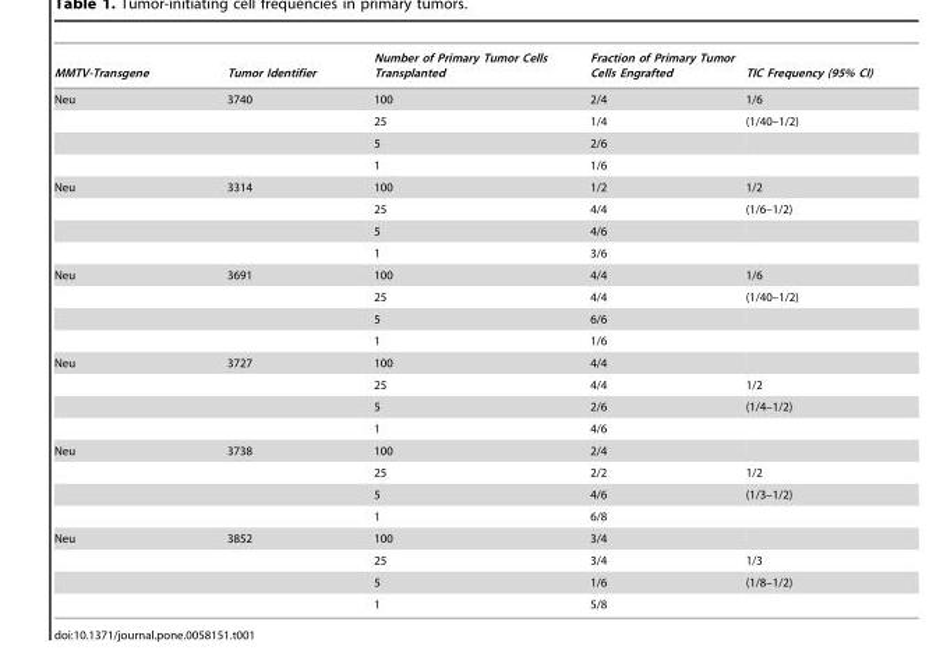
<table><thead><tr><td>MMTV-Transgene</td><td>Tumor Identifier</td><td>Number of Primary Tumor Cells Transplanted</td><td>Fraction of Primary Tumor Cells Engrafted</td><td>TIC Frequency (95% CI)</td></tr></thead><tbody><tr><td rowspan="4">Neu</td><td>3740</td><td>100</td><td>2/4</td><td>1/6</td></tr><tr><td></td><td>25</td><td>1/4</td><td>(1/40–1/2)</td></tr><tr><td></td><td>5</td><td>2/6</td><td></td></tr><tr><td></td><td>1</td><td>1/6</td><td></td></tr><tr><td rowspan="4">Neu</td><td>3314</td><td>100</td><td>1/2</td><td>1/2</td></tr><tr><td></td><td>25</td><td>4/4</td><td>(1/6–1/2)</td></tr><tr><td></td><td>5</td><td>4/6</td><td></td></tr><tr><td></td><td>1</td><td>3/6</td><td></td></tr><tr><td rowspan="4">Neu</td><td>3691</td><td>100</td><td>4/4</td><td>1/6</td></tr><tr><td></td><td>25</td><td>4/4</td><td>(1/40–1/2)</td></tr><tr><td></td><td>5</td><td>6/6</td><td></td></tr><tr><td></td><td>1</td><td>1/6</td><td></td></tr><tr><td rowspan="4">Neu</td><td>3727</td><td>100</td><td>4/4</td><td></td></tr><tr><td></td><td>25</td><td>4/4</td><td>1/2</td></tr><tr><td></td><td>5</td><td>2/6</td><td>(1/4–1/2)</td></tr><tr><td></td><td>1</td><td>4/6</td><td></td></tr><tr><td rowspan="4">Neu</td><td>3738</td><td>100</td><td>2/4</td><td></td></tr><tr><td></td><td>25</td><td>2/2</td><td>1/2</td></tr><tr><td></td><td>5</td><td>4/6</td><td>(1/3–1/2)</td></tr><tr><td></td><td>1</td><td>6/8</td><td></td></tr><tr><td rowspan="4">Neu</td><td>3852</td><td>100</td><td>3/4</td><td></td></tr><tr><td></td><td>25</td><td>3/4</td><td>1/3</td></tr><tr><td></td><td>5</td><td>1/6</td><td>(1/8–1/2)</td></tr><tr><td></td><td>1</td><td>5/8</td><td></td></tr></tbody></table>